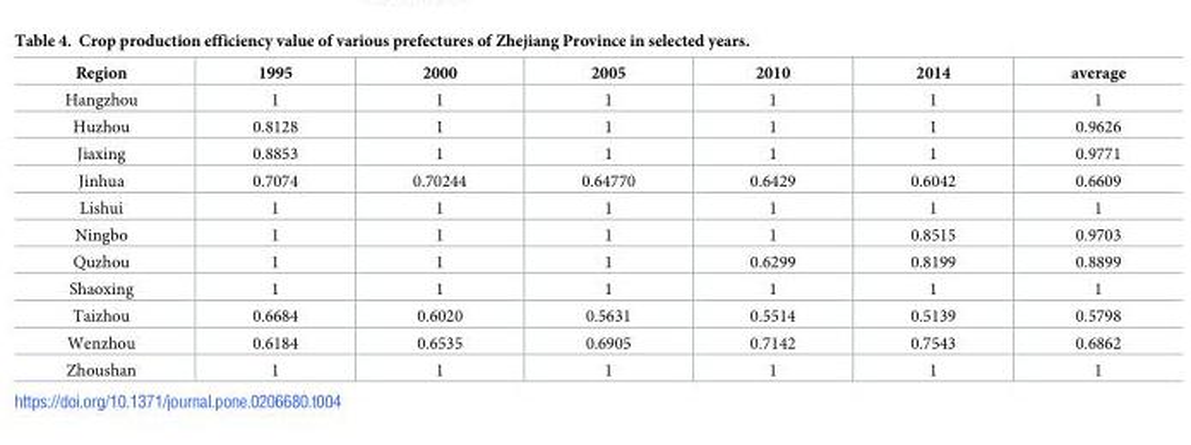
<table><thead><tr><td>Region</td><td>1995</td><td>2000</td><td>2005</td><td>2010</td><td>2014</td><td>average</td></tr></thead><tbody><tr><td>Hangzhou</td><td>1</td><td>1</td><td>1</td><td>1</td><td>1</td><td>1</td></tr><tr><td>Huzhou</td><td>0.8128</td><td>1</td><td>1</td><td>1</td><td>1</td><td>0.9626</td></tr><tr><td>Jiaxing</td><td>0.8853</td><td>1</td><td>1</td><td>1</td><td>1</td><td>0.9771</td></tr><tr><td>Jinhua</td><td>0.7074</td><td>0.70244</td><td>0.64770</td><td>0.6429</td><td>0.6042</td><td>0.6609</td></tr><tr><td>Lishui</td><td>1</td><td>1</td><td>1</td><td>1</td><td>1</td><td>1</td></tr><tr><td>Ningbo</td><td>1</td><td>1</td><td>1</td><td>1</td><td>0.8515</td><td>0.9703</td></tr><tr><td>Quzhou</td><td>1</td><td>1</td><td>1</td><td>0.6299</td><td>0.8199</td><td>0.8899</td></tr><tr><td>Shaoxing</td><td>1</td><td>1</td><td>1</td><td>1</td><td>1</td><td>1</td></tr><tr><td>Taizhou</td><td>0.6684</td><td>0.6020</td><td>0.5631</td><td>0.5514</td><td>0.5139</td><td>0.5798</td></tr><tr><td>Wenzhou</td><td>0.6184</td><td>0.6535</td><td>0.6905</td><td>0.7142</td><td>0.7543</td><td>0.6862</td></tr><tr><td>Zhoushan</td><td>1</td><td>1</td><td>1</td><td>1</td><td>1</td><td>1</td></tr></tbody></table>